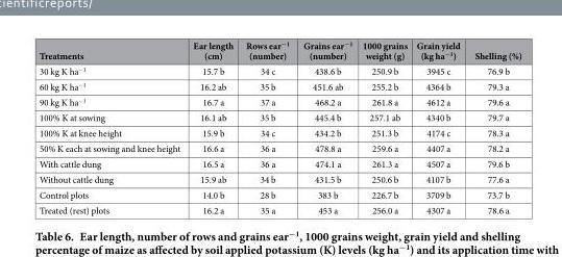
<table><thead><tr><td>Treatments</td><td>Ear length (cm)</td><td>Rows ear<sup>−1</sup> (number)</td><td>Grains ear<sup>−1</sup> (number)</td><td>1000 grains weight (g)</td><td>Grain yield (kg ha<sup>−1</sup>)</td><td>Shelling (%)</td></tr></thead><tbody><tr><td>30 kg K ha<sup>−1</sup></td><td>15.7 b</td><td>34 c</td><td>438.6 b</td><td>250.9 b</td><td>3945 c</td><td>76.9 b</td></tr><tr><td>60 kg K ha<sup>−1</sup></td><td>16.2 ab</td><td>35 b</td><td>451.6 ab</td><td>255.2 b</td><td>4364 b</td><td>79.3 a</td></tr><tr><td>90 kg K ha<sup>−1</sup></td><td>16.7 a</td><td>37 a</td><td>468.2 a</td><td>261.8 a</td><td>4612 a</td><td>79.6 a</td></tr><tr><td>100% K at sowing</td><td>16.1 ab</td><td>35 b</td><td>445.4 b</td><td>257.1 ab</td><td>4340 b</td><td>79.7 a</td></tr><tr><td>100% K at knee height</td><td>15.9 b</td><td>34 c</td><td>434.2 b</td><td>251.3 b</td><td>4174 c</td><td>78.3 a</td></tr><tr><td>50% K each at sowing and knee height</td><td>16.6 a</td><td>36 a</td><td>478.8 a</td><td>259.6 a</td><td>4407 a</td><td>78.2 a</td></tr><tr><td>With cattle dung</td><td>16.5 a</td><td>36 a</td><td>474.1 a</td><td>261.3 a</td><td>4507 a</td><td>79.6 b</td></tr><tr><td>Without cattle dung</td><td>15.9 ab</td><td>34 b</td><td>431.5 b</td><td>250.6 b</td><td>4107 b</td><td>77.6 a</td></tr><tr><td>Control plots</td><td>14.0 b</td><td>28 b</td><td>383 b</td><td>226.7 b</td><td>3709 b</td><td>73.7 b</td></tr><tr><td>Treated (rest) plots</td><td>16.2 a</td><td>35 a</td><td>453 a</td><td>256.0 a</td><td>4307 a</td><td>78.6 a</td></tr></tbody></table>